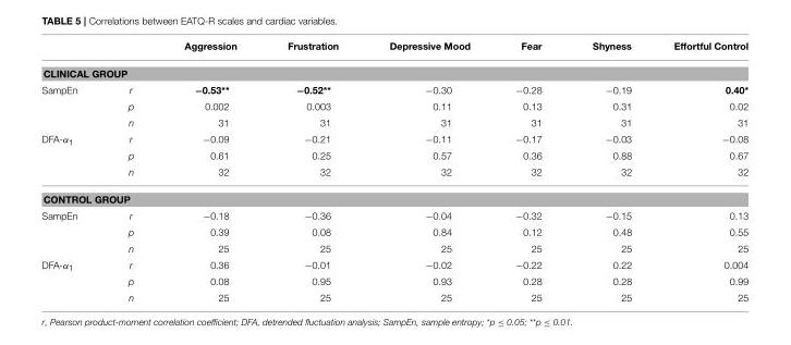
<table><thead><tr><td></td><td></td><td>Aggression</td><td>Frustration</td><td>Depressive Mood</td><td>Fear</td><td>Shyness</td><td>Effortful Control</td></tr></thead><tbody><tr><td colspan="8">CLINICAL GROUP</td></tr><tr><td rowspan="3">SampEn</td><td>r</td><td>−0.53**</td><td>−0.52**</td><td>−0.30</td><td>−0.28</td><td>−0.19</td><td>0.40*</td></tr><tr><td>p</td><td>0.002</td><td>0.003</td><td>0.11</td><td>0.13</td><td>0.31</td><td>0.02</td></tr><tr><td>n</td><td>31</td><td>31</td><td>31</td><td>31</td><td>31</td><td>31</td></tr><tr><td rowspan="3">DFA-α<sub>1</sub></td><td>r</td><td>−0.09</td><td>−0.21</td><td>−0.11</td><td>−0.17</td><td>−0.03</td><td>−0.08</td></tr><tr><td>p</td><td>0.61</td><td>0.25</td><td>0.57</td><td>0.36</td><td>0.88</td><td>0.67</td></tr><tr><td>n</td><td>32</td><td>32</td><td>32</td><td>32</td><td>32</td><td>32</td></tr><tr><td colspan="8">CONTROL GROUP</td></tr><tr><td rowspan="3">SampEn</td><td>r</td><td>−0.18</td><td>−0.36</td><td>−0.04</td><td>−0.32</td><td>−0.15</td><td>0.13</td></tr><tr><td>p</td><td>0.39</td><td>0.08</td><td>0.84</td><td>0.12</td><td>0.48</td><td>0.55</td></tr><tr><td>n</td><td>25</td><td>25</td><td>25</td><td>25</td><td>25</td><td>25</td></tr><tr><td rowspan="3">DFA-α<sub>1</sub></td><td>r</td><td>0.36</td><td>−0.01</td><td>−0.02</td><td>−0.22</td><td>0.22</td><td>0.004</td></tr><tr><td>p</td><td>0.08</td><td>0.95</td><td>0.93</td><td>0.28</td><td>0.28</td><td>0.99</td></tr><tr><td>n</td><td>25</td><td>25</td><td>25</td><td>25</td><td>25</td><td>25</td></tr></tbody></table>